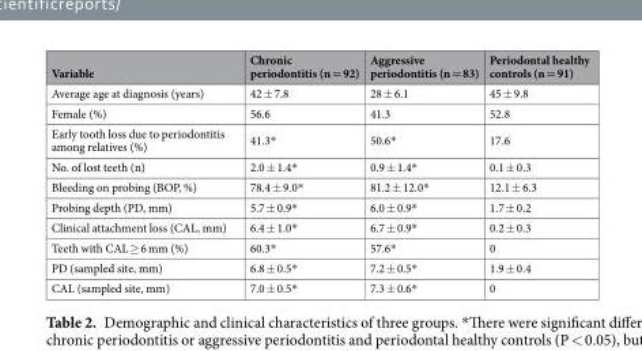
<table><thead><tr><td>Variable</td><td>Chronic periodontitis (n = 92)</td><td>Aggressive periodontitis (n = 83)</td><td>Periodontal healthy controls (n = 91)</td></tr></thead><tbody><tr><td>Average age at diagnosis (years)</td><td>42 ± 7.8</td><td>28 ± 6.1</td><td>45 ± 9.8</td></tr><tr><td>Female (%)</td><td>56.6</td><td>41.3</td><td>52.8</td></tr><tr><td>Early tooth loss due to periodontitis among relatives (%)</td><td>41.3*</td><td>50.6*</td><td>17.6</td></tr><tr><td>No. of lost teeth (n)</td><td>2.0 ± 1.4*</td><td>0.9 ± 1.4*</td><td>0.1 ± 0.3</td></tr><tr><td>Bleeding on probing (BOP, %)</td><td>78.4 ± 9.0*</td><td>81.2 ± 12.0*</td><td>12.1 ± 6.3</td></tr><tr><td>Probing depth (PD, mm)</td><td>5.7 ± 0.9*</td><td>6.0 ± 0.9*</td><td>1.7 ± 0.2</td></tr><tr><td>Clinical attachment loss (CAL, mm)</td><td>6.4 ± 1.0*</td><td>6.7 ± 0.9*</td><td>0.2 ± 0.3</td></tr><tr><td>Teeth with CAL ≥ 6 mm (%)</td><td>60.3*</td><td>57.6*</td><td>0</td></tr><tr><td>PD (sampled site, mm)</td><td>6.8 ± 0.5*</td><td>7.2 ± 0.5*</td><td>1.9 ± 0.4</td></tr><tr><td>CAL (sampled site, mm)</td><td>7.0 ± 0.5*</td><td>7.3 ± 0.6*</td><td>0</td></tr></tbody></table>